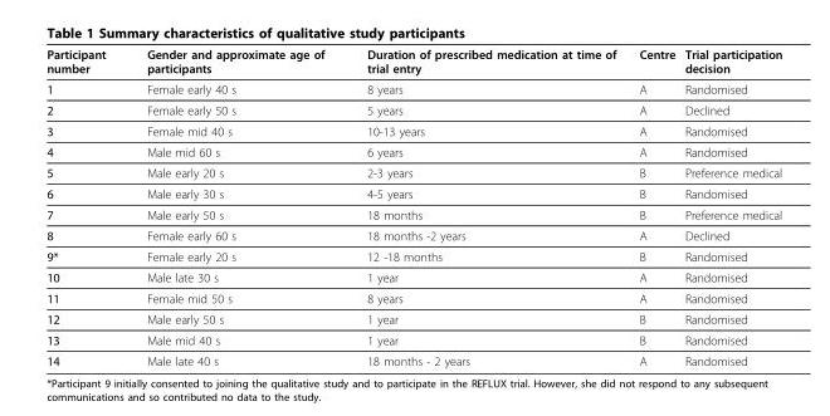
<table><thead><tr><td>Participant number</td><td>Gender and approximate age of participants</td><td>Duration of prescribed medication at time of trial entry</td><td>Centre</td><td>Trial participation decision</td></tr></thead><tbody><tr><td>1</td><td>Female early 40 s</td><td>8 years</td><td>A</td><td>Randomised</td></tr><tr><td>2</td><td>Female early 50 s</td><td>5 years</td><td>A</td><td>Declined</td></tr><tr><td>3</td><td>Female mid 40 s</td><td>10-13 years</td><td>A</td><td>Randomised</td></tr><tr><td>4</td><td>Male mid 60 s</td><td>6 years</td><td>A</td><td>Randomised</td></tr><tr><td>5</td><td>Male early 20 s</td><td>2-3 years</td><td>B</td><td>Preference medical</td></tr><tr><td>6</td><td>Male early 30 s</td><td>4-5 years</td><td>B</td><td>Randomised</td></tr><tr><td>7</td><td>Male early 50 s</td><td>18 months</td><td>B</td><td>Preference medical</td></tr><tr><td>8</td><td>Female early 60 s</td><td>18 months -2 years</td><td>A</td><td>Declined</td></tr><tr><td>9*</td><td>Female early 20 s</td><td>12 -18 months</td><td>B</td><td>Randomised</td></tr><tr><td>10</td><td>Male late 30 s</td><td>1 year</td><td>A</td><td>Randomised</td></tr><tr><td>11</td><td>Female mid 50 s</td><td>8 years</td><td>A</td><td>Randomised</td></tr><tr><td>12</td><td>Male early 50 s</td><td>1 year</td><td>B</td><td>Randomised</td></tr><tr><td>13</td><td>Male mid 40 s</td><td>1 year</td><td>B</td><td>Randomised</td></tr><tr><td>14</td><td>Male late 40 s</td><td>18 months - 2 years</td><td>A</td><td>Randomised</td></tr></tbody></table>